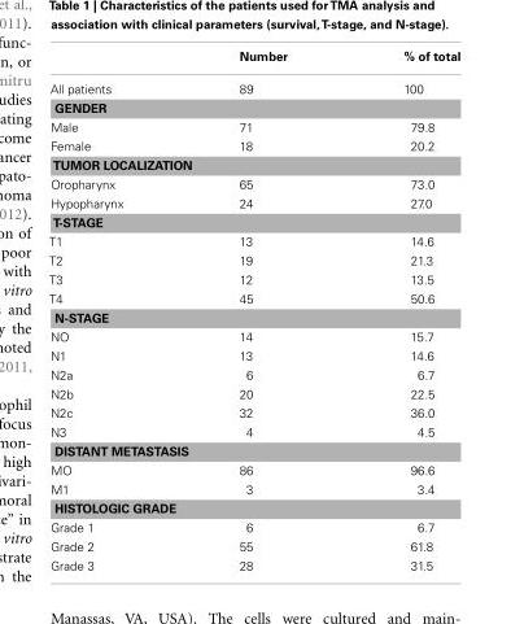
<table><thead><tr><td></td><td>Number</td><td>% of total</td></tr></thead><tbody><tr><td>All patients</td><td>89</td><td>100</td></tr><tr><td colspan="3">GENDER</td></tr><tr><td>Male</td><td>71</td><td>79.8</td></tr><tr><td>Female</td><td>18</td><td>20.2</td></tr><tr><td colspan="3">TUMOR LOCALIZATION</td></tr><tr><td>Oropharynx</td><td>65</td><td>73.0</td></tr><tr><td>Hypopharynx</td><td>24</td><td>27.0</td></tr><tr><td colspan="3">T-STAGE</td></tr><tr><td>T1</td><td>13</td><td>14.6</td></tr><tr><td>T2</td><td>19</td><td>21.3</td></tr><tr><td>T3</td><td>12</td><td>13.5</td></tr><tr><td>T4</td><td>45</td><td>50.6</td></tr><tr><td colspan="3">N-STAGE</td></tr><tr><td>NO</td><td>14</td><td>15.7</td></tr><tr><td>N1</td><td>13</td><td>14.6</td></tr><tr><td>N2a</td><td>6</td><td>6.7</td></tr><tr><td>N2b</td><td>20</td><td>22.5</td></tr><tr><td>N2c</td><td>32</td><td>36.0</td></tr><tr><td>N3</td><td>4</td><td>4.5</td></tr><tr><td colspan="3">DISTANT METASTASIS</td></tr><tr><td>MO</td><td>86</td><td>96.6</td></tr><tr><td>M1</td><td>3</td><td>3.4</td></tr><tr><td colspan="3">HISTOLOGIC GRADE</td></tr><tr><td>Grade 1</td><td>6</td><td>6.7</td></tr><tr><td>Grade 2</td><td>55</td><td>61.8</td></tr><tr><td>Grade 3</td><td>28</td><td>31.5</td></tr></tbody></table>